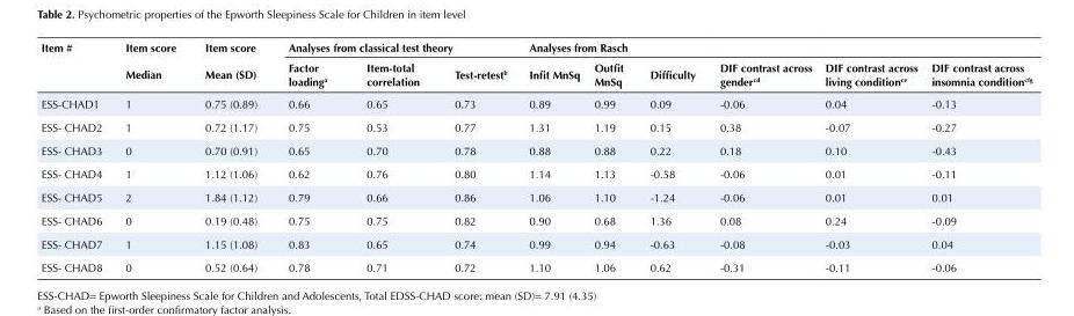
<table><tbody><tr><td rowspan="2">Item #</td><td>Item score</td><td>Item score</td><td colspan="3">Analyses from classical test theory</td><td colspan="6">Analyses from Rasch</td></tr><tr><td>Median</td><td>Mean (SD)</td><td>Factor loading<sup>a</sup></td><td>Item-total correlation</td><td>Test-retest<sup>b</sup></td><td>Infit MnSq</td><td>Outfit MnSq</td><td>Difficulty</td><td>DIF contrast across gender<sup>cd</sup></td><td>DIF contrast across living condition<sup>ce</sup></td><td>DIF contrast across insomnia condition<sup>cfg</sup></td></tr><tr><td>ESS-CHAD1</td><td>1</td><td>0.75 (0.89)</td><td>0.66</td><td>0.65</td><td>0.73</td><td>0.89</td><td>0.99</td><td>0.09</td><td>-0.06</td><td>0.04</td><td>-0.13</td></tr><tr><td>ESS- CHAD2</td><td>1</td><td>0.72 (1.17)</td><td>0.75</td><td>0.53</td><td>0.77</td><td>1.31</td><td>1.19</td><td>0.15</td><td>0.38</td><td>-0.07</td><td>-0.27</td></tr><tr><td>ESS- CHAD3</td><td>0</td><td>0.70 (0.91)</td><td>0.65</td><td>0.70</td><td>0.78</td><td>0.88</td><td>0.88</td><td>0.22</td><td>0.18</td><td>0.10</td><td>-0.43</td></tr><tr><td>ESS- CHAD4</td><td>1</td><td>1.12 (1.06)</td><td>0.62</td><td>0.76</td><td>0.80</td><td>1.14</td><td>1.13</td><td>-0.58</td><td>-0.06</td><td>0.01</td><td>-0.11</td></tr><tr><td>ESS- CHAD5</td><td>2</td><td>1.84 (1.12)</td><td>0.79</td><td>0.66</td><td>0.86</td><td>1.06</td><td>1.10</td><td>-1.24</td><td>-0.06</td><td>0.01</td><td>0.01</td></tr><tr><td>ESS- CHAD6</td><td>0</td><td>0.19 (0.48)</td><td>0.75</td><td>0.75</td><td>0.82</td><td>0.90</td><td>0.68</td><td>1.36</td><td>0.08</td><td>0.24</td><td>-0.09</td></tr><tr><td>ESS- CHAD7</td><td>1</td><td>1.15 (1.08)</td><td>0.83</td><td>0.65</td><td>0.74</td><td>0.99</td><td>0.94</td><td>-0.63</td><td>-0.08</td><td>-0.03</td><td>0.04</td></tr><tr><td>ESS- CHAD8</td><td>0</td><td>0.52 (0.64)</td><td>0.78</td><td>0.71</td><td>0.72</td><td>1.10</td><td>1.06</td><td>0.62</td><td>-0.31</td><td>-0.11</td><td>-0.06</td></tr></tbody></table>